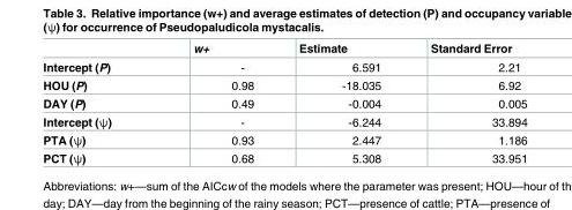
<table><thead><tr><td></td><td>w+</td><td>Estimate</td><td>Standard Error</td></tr></thead><tbody><tr><td>Intercept (P)</td><td>-</td><td>6.591</td><td>2.21</td></tr><tr><td>HOU (P)</td><td>0.98</td><td>-18.035</td><td>6.92</td></tr><tr><td>DAY (P)</td><td>0.49</td><td>-0.004</td><td>0.005</td></tr><tr><td>Intercept (ѱ)</td><td>-</td><td>-6.244</td><td>33.894</td></tr><tr><td>PTA (ѱ)</td><td>0.93</td><td>2.447</td><td>1.186</td></tr><tr><td>PCT (ѱ)</td><td>0.68</td><td>5.308</td><td>33.951</td></tr></tbody></table>